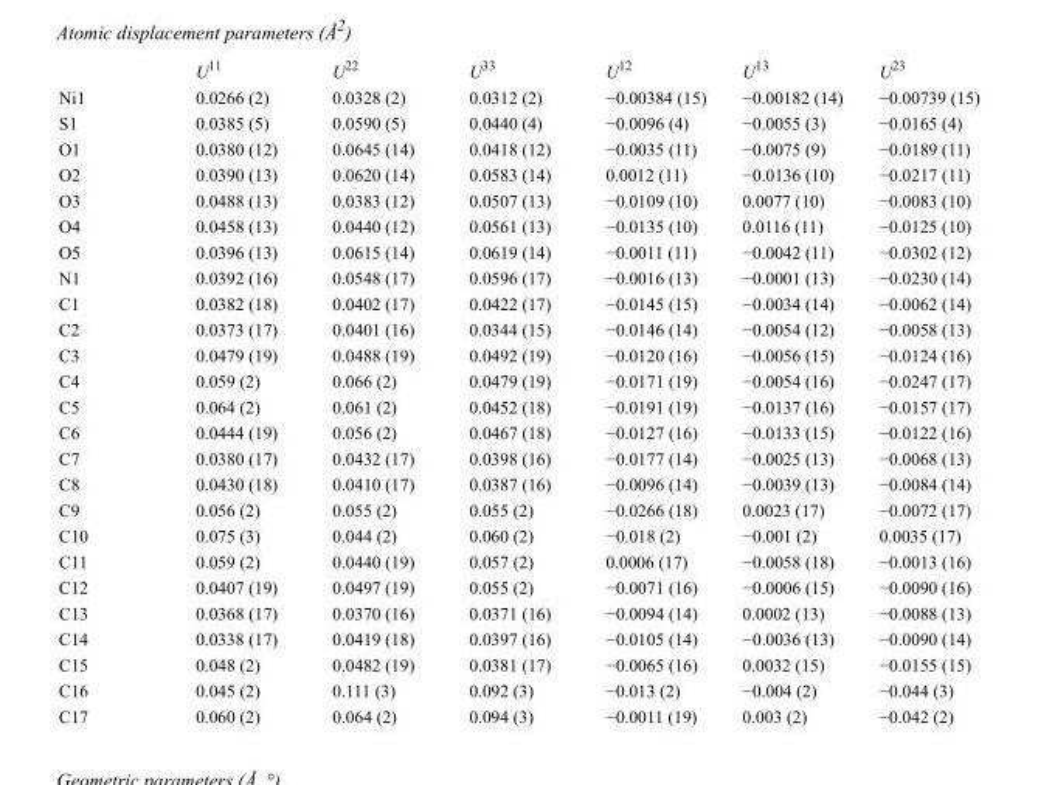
<table><thead><tr><td></td><td>U<sup>11</sup></td><td>U<sup>22</sup></td><td>U<sup>33</sup></td><td>U<sup>12</sup></td><td>U<sup>13</sup></td><td>U<sup>23</sup></td></tr></thead><tbody><tr><td>Ni1</td><td>0.0266 (2)</td><td>0.0328 (2)</td><td>0.0312 (2)</td><td>−0.00384 (15)</td><td>−0.00182 (14)</td><td>−0.00739 (15)</td></tr><tr><td>S1</td><td>0.0385 (5)</td><td>0.0590 (5)</td><td>0.0440 (4)</td><td>−0.0096 (4)</td><td>−0.0055 (3)</td><td>−0.0165 (4)</td></tr><tr><td>O1</td><td>0.0380 (12)</td><td>0.0645 (14)</td><td>0.0418 (12)</td><td>−0.0035 (11)</td><td>−0.0075 (9)</td><td>−0.0189 (11)</td></tr><tr><td>O2</td><td>0.0390 (13)</td><td>0.0620 (14)</td><td>0.0583 (14)</td><td>0.0012 (11)</td><td>−0.0136 (10)</td><td>−0.0217 (11)</td></tr><tr><td>O3</td><td>0.0488 (13)</td><td>0.0383 (12)</td><td>0.0507 (13)</td><td>−0.0109 (10)</td><td>0.0077 (10)</td><td>−0.0083 (10)</td></tr><tr><td>O4</td><td>0.0458 (13)</td><td>0.0440 (12)</td><td>0.0561 (13)</td><td>−0.0135 (10)</td><td>0.0116 (11)</td><td>−0.0125 (10)</td></tr><tr><td>O5</td><td>0.0396 (13)</td><td>0.0615 (14)</td><td>0.0619 (14)</td><td>−0.0011 (11)</td><td>−0.0042 (11)</td><td>−0.0302 (12)</td></tr><tr><td>N1</td><td>0.0392 (16)</td><td>0.0548 (17)</td><td>0.0596 (17)</td><td>−0.0016 (13)</td><td>−0.0001 (13)</td><td>−0.0230 (14)</td></tr><tr><td>C1</td><td>0.0382 (18)</td><td>0.0402 (17)</td><td>0.0422 (17)</td><td>−0.0145 (15)</td><td>−0.0034 (14)</td><td>−0.0062 (14)</td></tr><tr><td>C2</td><td>0.0373 (17)</td><td>0.0401 (16)</td><td>0.0344 (15)</td><td>−0.0146 (14)</td><td>−0.0054 (12)</td><td>−0.0058 (13)</td></tr><tr><td>C3</td><td>0.0479 (19)</td><td>0.0488 (19)</td><td>0.0492 (19)</td><td>−0.0120 (16)</td><td>−0.0056 (15)</td><td>−0.0124 (16)</td></tr><tr><td>C4</td><td>0.059 (2)</td><td>0.066 (2)</td><td>0.0479 (19)</td><td>−0.0171 (19)</td><td>−0.0054 (16)</td><td>−0.0247 (17)</td></tr><tr><td>C5</td><td>0.064 (2)</td><td>0.061 (2)</td><td>0.0452 (18)</td><td>−0.0191 (19)</td><td>−0.0137 (16)</td><td>−0.0157 (17)</td></tr><tr><td>C6</td><td>0.0444 (19)</td><td>0.056 (2)</td><td>0.0467 (18)</td><td>−0.0127 (16)</td><td>−0.0133 (15)</td><td>−0.0122 (16)</td></tr><tr><td>C7</td><td>0.0380 (17)</td><td>0.0432 (17)</td><td>0.0398 (16)</td><td>−0.0177 (14)</td><td>−0.0025 (13)</td><td>−0.0068 (13)</td></tr><tr><td>C8</td><td>0.0430 (18)</td><td>0.0410 (17)</td><td>0.0387 (16)</td><td>−0.0096 (14)</td><td>−0.0039 (13)</td><td>−0.0084 (14)</td></tr><tr><td>C9</td><td>0.056 (2)</td><td>0.055 (2)</td><td>0.055 (2)</td><td>−0.0266 (18)</td><td>0.0023 (17)</td><td>−0.0072 (17)</td></tr><tr><td>C10</td><td>0.075 (3)</td><td>0.044 (2)</td><td>0.060 (2)</td><td>−0.018 (2)</td><td>−0.001 (2)</td><td>0.0035 (17)</td></tr><tr><td>C11</td><td>0.059 (2)</td><td>0.0440 (19)</td><td>0.057 (2)</td><td>0.0006 (17)</td><td>−0.0058 (18)</td><td>−0.0013 (16)</td></tr><tr><td>C12</td><td>0.0407 (19)</td><td>0.0497 (19)</td><td>0.055 (2)</td><td>−0.0071 (16)</td><td>−0.0006 (15)</td><td>−0.0090 (16)</td></tr><tr><td>C13</td><td>0.0368 (17)</td><td>0.0370 (16)</td><td>0.0371 (16)</td><td>−0.0094 (14)</td><td>0.0002 (13)</td><td>−0.0088 (13)</td></tr><tr><td>C14</td><td>0.0338 (17)</td><td>0.0419 (18)</td><td>0.0397 (16)</td><td>−0.0105 (14)</td><td>−0.0036 (13)</td><td>−0.0090 (14)</td></tr><tr><td>C15</td><td>0.048 (2)</td><td>0.0482 (19)</td><td>0.0381 (17)</td><td>−0.0065 (16)</td><td>0.0032 (15)</td><td>−0.0155 (15)</td></tr><tr><td>C16</td><td>0.045 (2)</td><td>0.111 (3)</td><td>0.092 (3)</td><td>−0.013 (2)</td><td>−0.004 (2)</td><td>−0.044 (3)</td></tr><tr><td>C17</td><td>0.060 (2)</td><td>0.064 (2)</td><td>0.094 (3)</td><td>−0.0011 (19)</td><td>0.003 (2)</td><td>−0.042 (2)</td></tr></tbody></table>